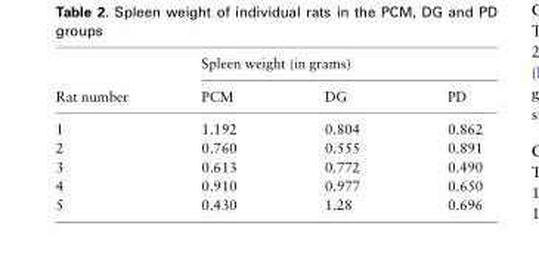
<table><thead><tr><td rowspan="2">Rat number</td><td colspan="3">Spleen weight (in grams)</td></tr><tr><td>PCM</td><td>DG</td><td>PD</td></tr></thead><tbody><tr><td>1</td><td>1.192</td><td>0.804</td><td>0.862</td></tr><tr><td>2</td><td>0.760</td><td>0.555</td><td>0.891</td></tr><tr><td>3</td><td>0.613</td><td>0.772</td><td>0.490</td></tr><tr><td>4</td><td>0.910</td><td>0.977</td><td>0.650</td></tr><tr><td>5</td><td>0.430</td><td>1.28</td><td>0.696</td></tr></tbody></table>